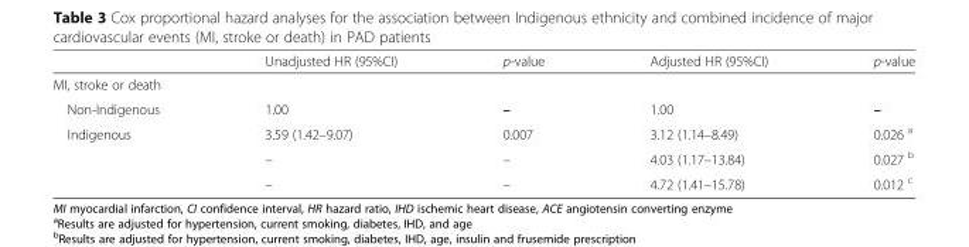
<table><thead><tr><td></td><td>Unadjusted HR (95%CI)</td><td>p-value</td><td>Adjusted HR (95%CI)</td><td>p-value</td></tr></thead><tbody><tr><td colspan="5">MI, stroke or death</td></tr><tr><td>Non-Indigenous</td><td>1.00</td><td>–</td><td>1.00</td><td>–</td></tr><tr><td rowspan="3">Indigenous</td><td>3.59 (1.42–9.07)</td><td>0.007</td><td>3.12 (1.14–8.49)</td><td>0.026 <sup>a</sup></td></tr><tr><td>–</td><td>–</td><td>4.03 (1.17–13.84)</td><td>0.027 <sup>b</sup></td></tr><tr><td>–</td><td>–</td><td>4.72 (1.41–15.78)</td><td>0.012 <sup>c</sup></td></tr></tbody></table>